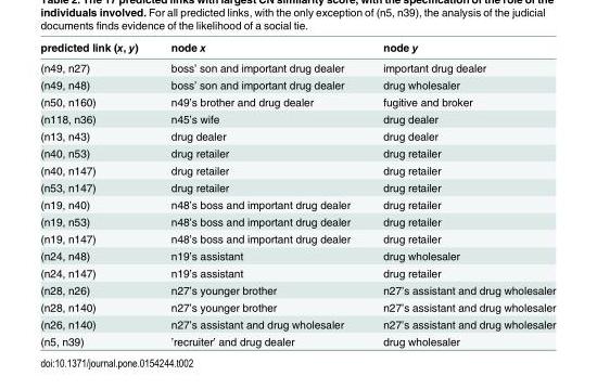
<table><thead><tr><td>predicted link (x, y)</td><td>node x</td><td>node y</td></tr></thead><tbody><tr><td>(n49, n27)</td><td>boss’ son and important drug dealer</td><td>important drug dealer</td></tr><tr><td>(n49, n48)</td><td>boss’ son and important drug dealer</td><td>drug wholesaler</td></tr><tr><td>(n50, n160)</td><td>n49’s brother and drug dealer</td><td>fugitive and broker</td></tr><tr><td>(n118, n36)</td><td>n45’s wife</td><td>drug dealer</td></tr><tr><td>(n13, n43)</td><td>drug dealer</td><td>drug dealer</td></tr><tr><td>(n40, n53)</td><td>drug retailer</td><td>drug retailer</td></tr><tr><td>(n40, n147)</td><td>drug retailer</td><td>drug retailer</td></tr><tr><td>(n53, n147)</td><td>drug retailer</td><td>drug retailer</td></tr><tr><td>(n19, n40)</td><td>n48’s boss and important drug dealer</td><td>drug retailer</td></tr><tr><td>(n19, n53)</td><td>n48’s boss and important drug dealer</td><td>drug retailer</td></tr><tr><td>(n19, n147)</td><td>n48’s boss and important drug dealer</td><td>drug retailer</td></tr><tr><td>(n24, n48)</td><td>n19’s assistant</td><td>drug wholesaler</td></tr><tr><td>(n24, n147)</td><td>n19’s assistant</td><td>drug retailer</td></tr><tr><td>(n28, n26)</td><td>n27’s younger brother</td><td>n27’s assistant and drug wholesaler</td></tr><tr><td>(n28, n140)</td><td>n27’s younger brother</td><td>n27’s assistant and drug wholesaler</td></tr><tr><td>(n26, n140)</td><td>n27’s assistant and drug wholesaler</td><td>n27’s assistant and drug wholesaler</td></tr><tr><td>(n5, n39)</td><td>’recruiter’ and drug dealer</td><td>drug wholesaler</td></tr></tbody></table>